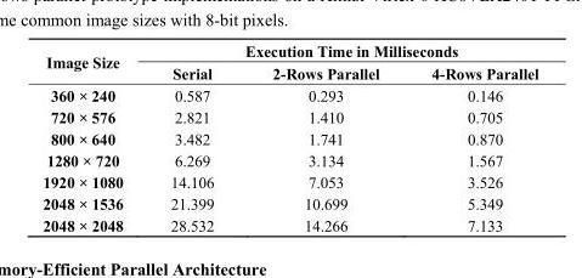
<table><thead><tr><td rowspan="2">Image Size</td><td colspan="3">Execution Time in Milliseconds</td></tr><tr><td>Serial</td><td>2-Rows Parallel</td><td>4-Rows Parallel</td></tr></thead><tbody><tr><td>360 × 240</td><td>0.587</td><td>0.293</td><td>0.146</td></tr><tr><td>720 × 576</td><td>2.821</td><td>1.410</td><td>0.705</td></tr><tr><td>800 × 640</td><td>3.482</td><td>1.741</td><td>0.870</td></tr><tr><td>1280 × 720</td><td>6.269</td><td>3.134</td><td>1.567</td></tr><tr><td>1920 × 1080</td><td>14.106</td><td>7.053</td><td>3.526</td></tr><tr><td>2048 × 1536</td><td>21.399</td><td>10.699</td><td>5.349</td></tr><tr><td>2048 × 2048</td><td>28.532</td><td>14.266</td><td>7.133</td></tr></tbody></table>